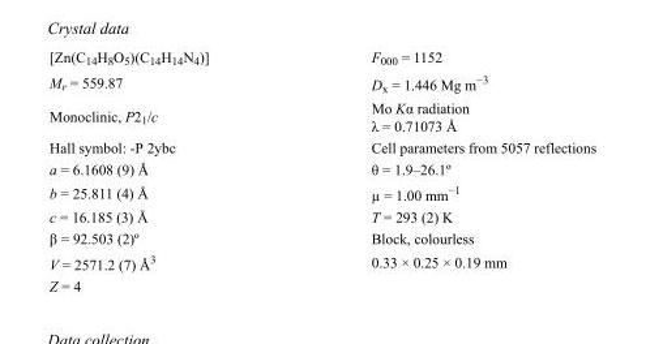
<table><tbody><tr><td>[Zn(C<sub>14</sub>H<sub>8</sub>O<sub>5</sub>)(C<sub>14</sub>H<sub>14</sub>N<sub>4</sub>)]</td><td>F<sub>000</sub> = 1152</td></tr><tr><td>M<sub>r</sub> = 559.87</td><td>D<sub>x</sub> = 1.446 Mg m<sup>−3</sup></td></tr><tr><td>Monoclinic, P2<sub>1</sub>/c</td><td>Mo Kα radiation λ = 0.71073 Å</td></tr><tr><td>Hall symbol: -P 2ybc</td><td>Cell parameters from 5057 reflections</td></tr><tr><td>a = 6.1608 (9) Å</td><td>θ = 1.9–26.1º</td></tr><tr><td>b = 25.811 (4) Å</td><td>µ = 1.00 mm<sup>−1</sup></td></tr><tr><td>c = 16.185 (3) Å</td><td>T = 293 (2) K</td></tr><tr><td>β = 92.503 (2)º</td><td>Block, colourless</td></tr><tr><td>V = 2571.2 (7) Å<sup>3</sup></td><td>0.33 × 0.25 × 0.19 mm</td></tr><tr><td>Z = 4</td><td></td></tr></tbody></table>